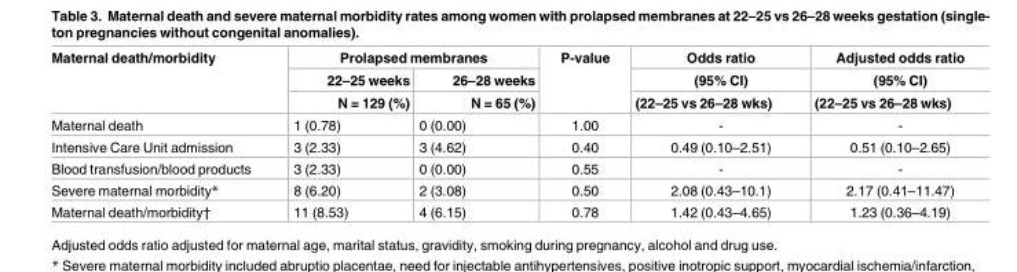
<table><thead><tr><td rowspan="3">Maternal death/morbidity</td><td colspan="2">Prolapsed membranes</td><td rowspan="3">P-value</td><td rowspan="3">Odds ratio (95% CI) (22–25 vs 26–28 wks)</td><td rowspan="3">Adjusted odds ratio (95% CI) (22–25 vs 26–28 wks)</td></tr><tr><td rowspan="2">22–25 weeks N = 129 (%)</td><td rowspan="2">26–28 weeks N = 65 (%)</td></tr><tr></tr></thead><tbody><tr><td>Maternal death</td><td>1 (0.78)</td><td>0 (0.00)</td><td>1.00</td><td>-</td><td>-</td></tr><tr><td>Intensive Care Unit admission</td><td>3 (2.33)</td><td>3 (4.62)</td><td>0.40</td><td>0.49 (0.10–2.51)</td><td>0.51 (0.10–2.65)</td></tr><tr><td>Blood transfusion/blood products</td><td>3 (2.33)</td><td>0 (0.00)</td><td>0.55</td><td>-</td><td>-</td></tr><tr><td>Severe maternal morbidity*</td><td>8 (6.20)</td><td>2 (3.08)</td><td>0.50</td><td>2.08 (0.43–10.1)</td><td>2.17 (0.41–11.47)</td></tr><tr><td>Maternal death/morbidity†</td><td>11 (8.53)</td><td>4 (6.15)</td><td>0.78</td><td>1.42 (0.43–4.65)</td><td>1.23 (0.36–4.19)</td></tr></tbody></table>